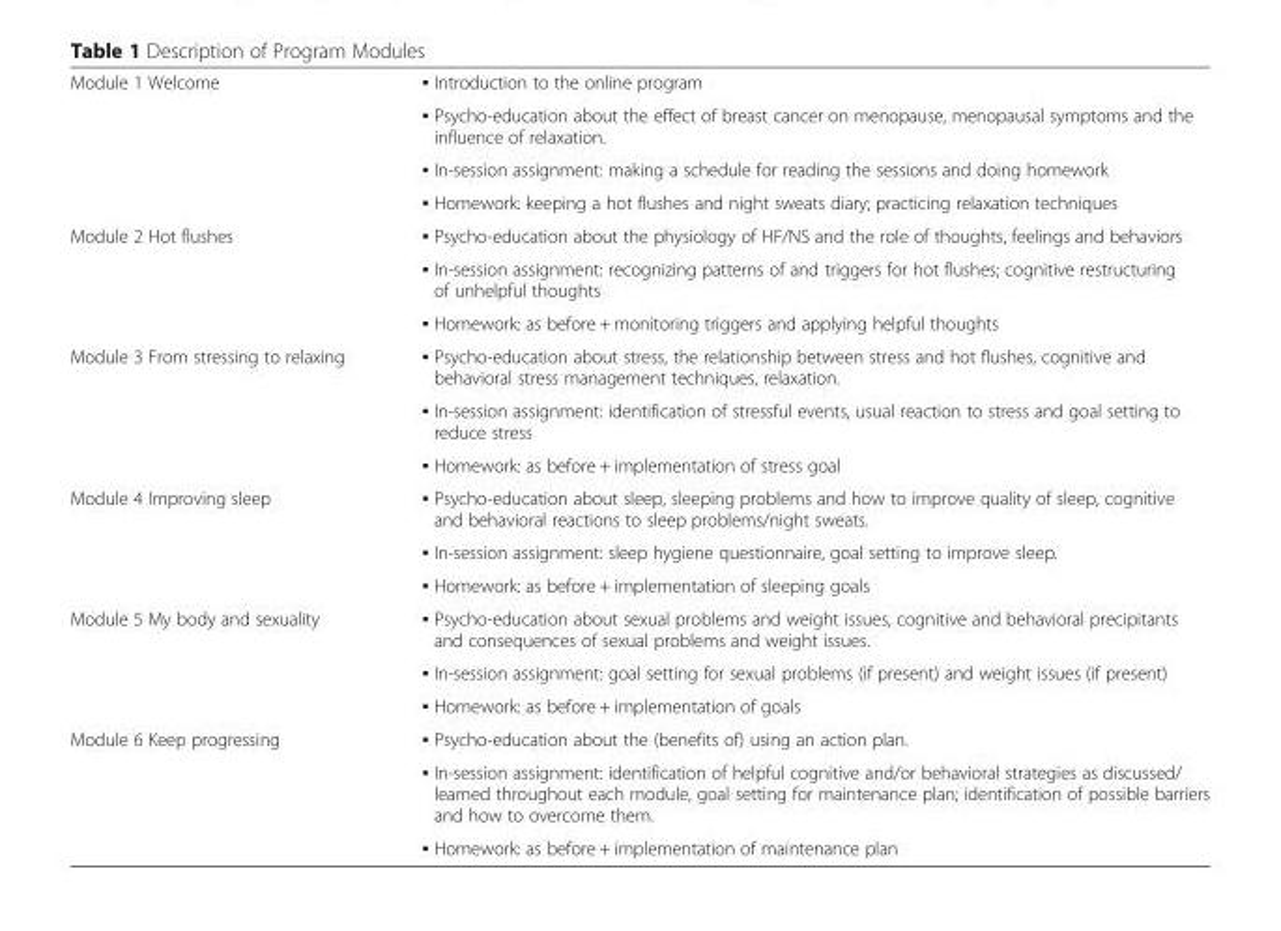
<table><tbody><tr><td rowspan="4">Module 1 Welcome</td><td>▪ Introduction to the online program</td></tr><tr><td>▪ Psycho-education about the effect of breast cancer on menopause, menopausal symptoms and the influence of relaxation.</td></tr><tr><td>▪ In-session assignment: making a schedule for reading the sessions and doing homework</td></tr><tr><td>▪ Homework: keeping a hot flushes and night sweats diary; practicing relaxation techniques</td></tr><tr><td rowspan="3">Module 2 Hot flushes</td><td>▪ Psycho-education about the physiology of HF/NS and the role of thoughts, feelings and behaviors</td></tr><tr><td>▪ In-session assignment: recognizing patterns of and triggers for hot flushes; cognitive restructuring of unhelpful thoughts</td></tr><tr><td>▪ Homework: as before + monitoring triggers and applying helpful thoughts</td></tr><tr><td rowspan="3">Module 3 From stressing to relaxing</td><td>▪ Psycho-education about stress, the relationship between stress and hot flushes, cognitive and behavioral stress management techniques, relaxation.</td></tr><tr><td>▪ In-session assignment: identification of stressful events, usual reaction to stress and goal setting to reduce stress</td></tr><tr><td>▪ Homework: as before + implementation of stress goal</td></tr><tr><td rowspan="3">Module 4 Improving sleep</td><td>▪ Psycho-education about sleep, sleeping problems and how to improve quality of sleep, cognitive and behavioral reactions to sleep problems/night sweats.</td></tr><tr><td>▪ In-session assignment: sleep hygiene questionnaire, goal setting to improve sleep.</td></tr><tr><td>▪ Homework: as before + implementation of sleeping goals</td></tr><tr><td rowspan="3">Module 5 My body and sexuality</td><td>▪ Psycho-education about sexual problems and weight issues, cognitive and behavioral precipitants and consequences of sexual problems and weight issues.</td></tr><tr><td>▪ In-session assignment: goal setting for sexual problems (if present) and weight issues (if present)</td></tr><tr><td>▪ Homework: as before + implementation of goals</td></tr><tr><td rowspan="3">Module 6 Keep progressing</td><td>▪ Psycho-education about the (benefits of) using an action plan.</td></tr><tr><td>▪ In-session assignment: identification of helpful cognitive and/or behavioral strategies as discussed/ learned throughout each module, goal setting for maintenance plan; identification of possible barriers and how to overcome them.</td></tr><tr><td>▪ Homework: as before + implementation of maintenance plan</td></tr></tbody></table>